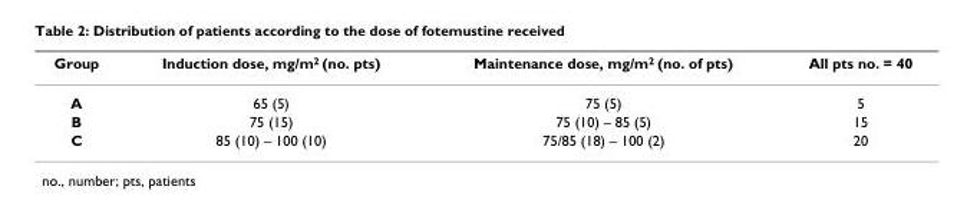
<table><thead><tr><td>Group</td><td>Induction dose, mg/m<sup>2</sup> (no. pts)</td><td>Maintenance dose, mg/m<sup>2</sup> (no. of pts)</td><td>All pts no. = 40</td></tr></thead><tbody><tr><td>A</td><td>65 (5)</td><td>75 (5)</td><td>5</td></tr><tr><td>B</td><td>75 (15)</td><td>75 (10) – 85 (5)</td><td>15</td></tr><tr><td>C</td><td>85 (10) – 100 (10)</td><td>75/85 (18) – 100 (2)</td><td>20</td></tr></tbody></table>